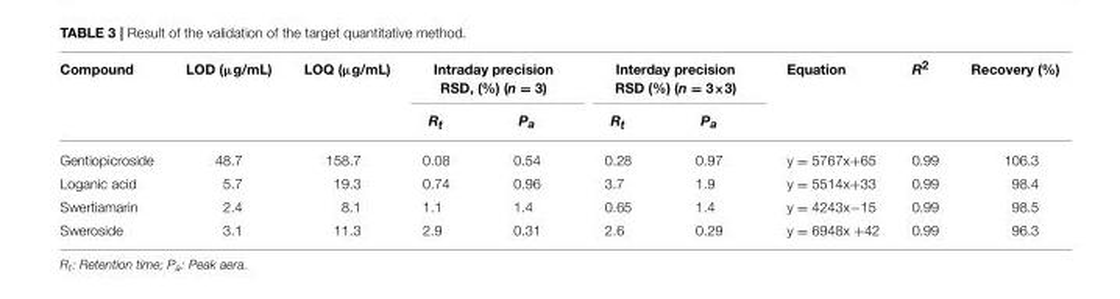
<table><thead><tr><td rowspan="2">Compound</td><td rowspan="2">LOD (µg/mL)</td><td rowspan="2">LOQ (µg/mL)</td><td colspan="2">Intraday precision RSD, (%) (n = 3)</td><td colspan="2">Interday precision RSD (%) (n = 3×3)</td><td rowspan="2">Equation</td><td rowspan="2">R<sup>2</sup></td><td rowspan="2">Recovery (%)</td></tr><tr><td>Rt</td><td>Pa</td><td>Rt</td><td>Pa</td></tr></thead><tbody><tr><td>Gentiopicroside</td><td>48.7</td><td>158.7</td><td>0.08</td><td>0.54</td><td>0.28</td><td>0.97</td><td>y = 5767x+65</td><td>0.99</td><td>106.3</td></tr><tr><td>Loganic acid</td><td>5.7</td><td>19.3</td><td>0.74</td><td>0.96</td><td>3.7</td><td>1.9</td><td>y = 5514x+33</td><td>0.99</td><td>98.4</td></tr><tr><td>Swertiamarin</td><td>2.4</td><td>8.1</td><td>1.1</td><td>1.4</td><td>0.65</td><td>1.4</td><td>y = 4243x−15</td><td>0.99</td><td>98.5</td></tr><tr><td>Sweroside</td><td>3.1</td><td>11.3</td><td>2.9</td><td>0.31</td><td>2.6</td><td>0.29</td><td>y = 6948x +42</td><td>0.99</td><td>96.3</td></tr></tbody></table>